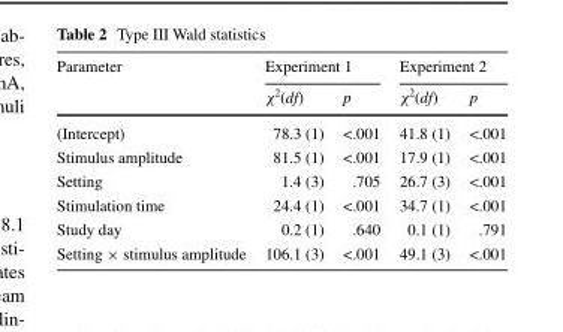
<table><thead><tr><td rowspan="2">Parameter</td><td colspan="2">Experiment 1</td><td colspan="2">Experiment 2</td></tr><tr><td>χ<sup>2</sup>(df)</td><td>p</td><td>χ<sup>2</sup>(df)</td><td>p</td></tr></thead><tbody><tr><td>(Intercept)</td><td>78.3 (1)</td><td>&lt;.001</td><td>41.8 (1)</td><td>&lt;.001</td></tr><tr><td>Stimulus amplitude</td><td>81.5 (1)</td><td>&lt;.001</td><td>17.9 (1)</td><td>&lt;.001</td></tr><tr><td>Setting</td><td>1.4 (3)</td><td>.705</td><td>26.7 (3)</td><td>&lt;.001</td></tr><tr><td>Stimulation time</td><td>24.4 (1)</td><td>&lt;.001</td><td>34.7 (1)</td><td>&lt;.001</td></tr><tr><td>Study day</td><td>0.2 (1)</td><td>.640</td><td>0.1 (1)</td><td>.791</td></tr><tr><td>Setting × stimulus amplitude</td><td>106.1 (3)</td><td>&lt;.001</td><td>49.1 (3)</td><td>&lt;.001</td></tr></tbody></table>